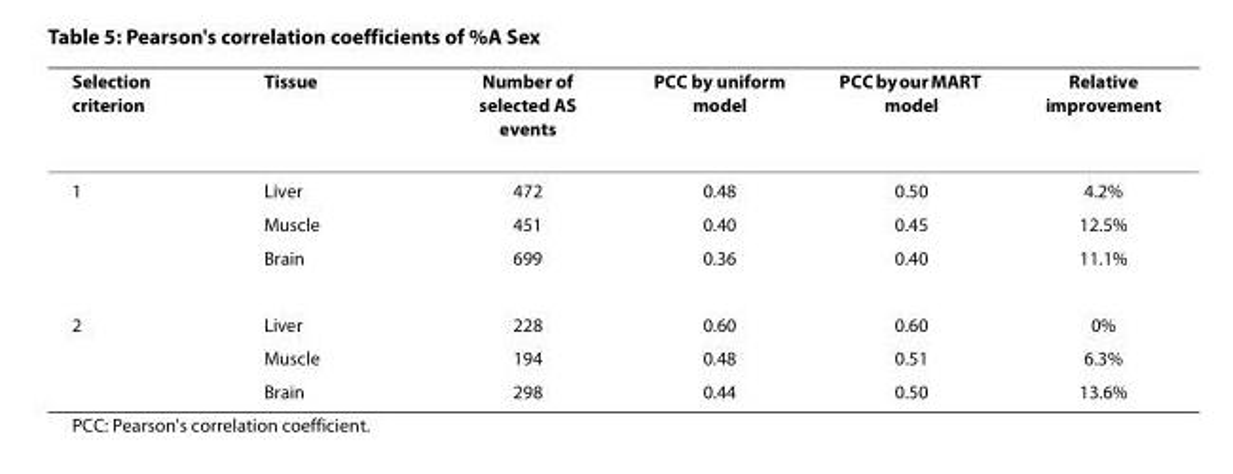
<table><thead><tr><td>Selection criterion</td><td>Tissue</td><td>Number of selected AS events</td><td>PCC by uniform model</td><td>PCC by our MART model</td><td>Relative improvement</td></tr></thead><tbody><tr><td rowspan="3">1</td><td>Liver</td><td>472</td><td>0.48</td><td>0.50</td><td>4.2%</td></tr><tr><td>Muscle</td><td>451</td><td>0.40</td><td>0.45</td><td>12.5%</td></tr><tr><td>Brain</td><td>699</td><td>0.36</td><td>0.40</td><td>11.1%</td></tr><tr><td rowspan="3">2</td><td>Liver</td><td>228</td><td>0.60</td><td>0.60</td><td>0%</td></tr><tr><td>Muscle</td><td>194</td><td>0.48</td><td>0.51</td><td>6.3%</td></tr><tr><td>Brain</td><td>298</td><td>0.44</td><td>0.50</td><td>13.6%</td></tr></tbody></table>